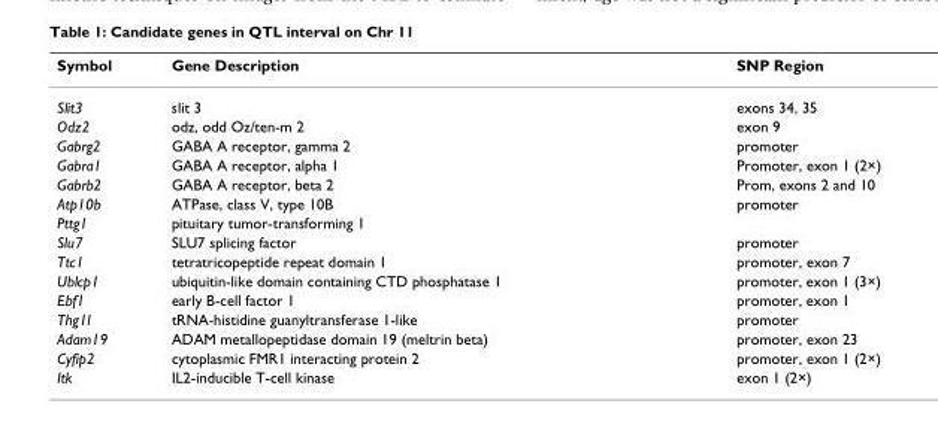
<table><thead><tr><td>Symbol</td><td>Gene Description</td><td>SNP Region</td></tr></thead><tbody><tr><td>Slit3</td><td>slit 3</td><td>exons 34, 35</td></tr><tr><td>Odz2</td><td>odz, odd Oz/ten-m 2</td><td>exon 9</td></tr><tr><td>Gabrg2</td><td>GABA A receptor, gamma 2</td><td>promoter</td></tr><tr><td>Gabra1</td><td>GABA A receptor, alpha 1</td><td>Promoter, exon 1 (2×)</td></tr><tr><td>Gabrb2</td><td>GABA A receptor, beta 2</td><td>Prom, exons 2 and 10</td></tr><tr><td>Atp10b</td><td>ATPase, class V, type 10B</td><td>promoter</td></tr><tr><td>Pttg1</td><td>pituitary tumor-transforming 1</td><td></td></tr><tr><td>Slu7</td><td>SLU7 splicing factor</td><td>promoter</td></tr><tr><td>Ttc1</td><td>tetratricopeptide repeat domain 1</td><td>promoter, exon 7</td></tr><tr><td>Ublcp1</td><td>ubiquitin-like domain containing CTD phosphatase 1</td><td>promoter, exon 1 (3×)</td></tr><tr><td>Ebf1</td><td>early B-cell factor 1</td><td>promoter, exon 1</td></tr><tr><td>Thg1l</td><td>tRNA-histidine guanyltransferase 1-like</td><td>promoter</td></tr><tr><td>Adam19</td><td>ADAM metallopeptidase domain 19 (meltrin beta)</td><td>promoter, exon 23</td></tr><tr><td>Cyfip2</td><td>cytoplasmic FMR1 interacting protein 2</td><td>promoter, exon 1 (2×)</td></tr><tr><td>Itk</td><td>IL2-inducible T-cell kinase</td><td>exon 1 (2×)</td></tr></tbody></table>